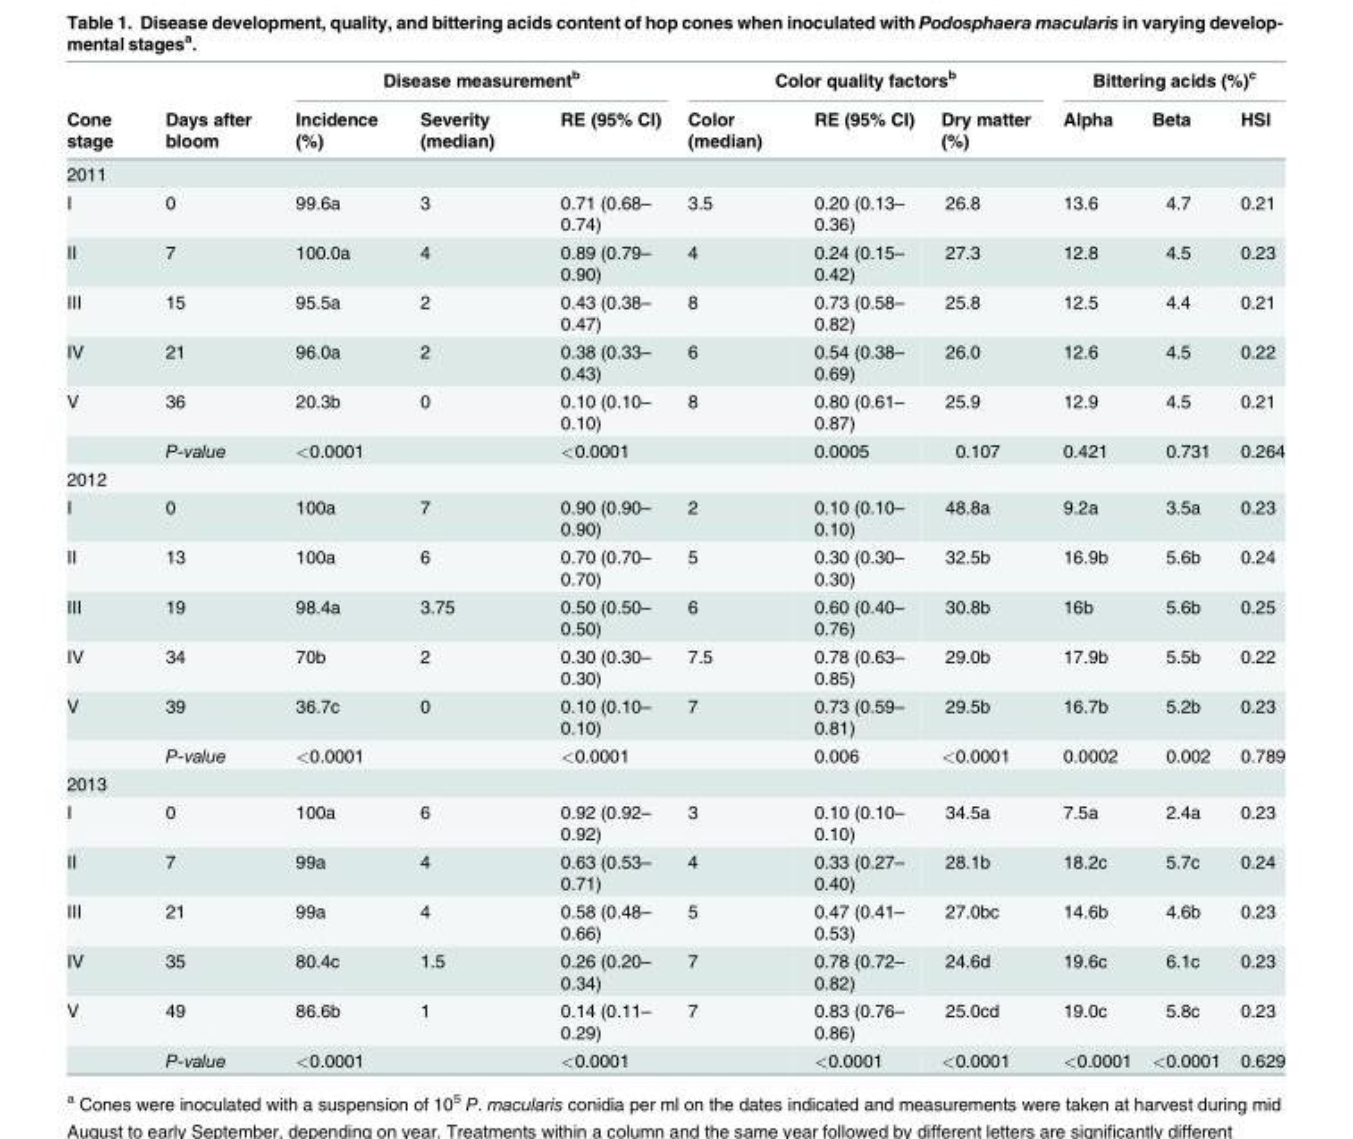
<table><thead><tr><td rowspan="2">Cone stage</td><td rowspan="2">Days after bloom</td><td colspan="3">Disease measurement<sup>b</sup></td><td colspan="3">Color quality factors<sup>b</sup></td><td colspan="3">Bittering acids (%)<sup>c</sup></td></tr><tr><td>Incidence (%)</td><td>Severity (median)</td><td>RE (95% CI)</td><td>Color (median)</td><td>RE (95% CI)</td><td>Dry matter (%)</td><td>Alpha</td><td>Beta</td><td>HSI</td></tr></thead><tbody><tr><td colspan="11">2011</td></tr><tr><td>I</td><td>0</td><td>99.6a</td><td>3</td><td>0.71 (0.68– 0.74)</td><td>3.5</td><td>0.20 (0.13– 0.36)</td><td>26.8</td><td>13.6</td><td>4.7</td><td>0.21</td></tr><tr><td>II</td><td>7</td><td>100.0a</td><td>4</td><td>0.89 (0.79– 0.90)</td><td>4</td><td>0.24 (0.15– 0.42)</td><td>27.3</td><td>12.8</td><td>4.5</td><td>0.23</td></tr><tr><td>III</td><td>15</td><td>95.5a</td><td>2</td><td>0.43 (0.38– 0.47)</td><td>8</td><td>0.73 (0.58– 0.82)</td><td>25.8</td><td>12.5</td><td>4.4</td><td>0.21</td></tr><tr><td>IV</td><td>21</td><td>96.0a</td><td>2</td><td>0.38 (0.33– 0.43)</td><td>6</td><td>0.54 (0.38– 0.69)</td><td>26.0</td><td>12.6</td><td>4.5</td><td>0.22</td></tr><tr><td rowspan="2">V</td><td>36</td><td>20.3b</td><td>0</td><td>0.10 (0.10– 0.10)</td><td>8</td><td>0.80 (0.61– 0.87)</td><td>25.9</td><td>12.9</td><td>4.5</td><td>0.21</td></tr><tr><td>P-value</td><td>&lt;0.0001</td><td></td><td>&lt;0.0001</td><td></td><td>0.0005</td><td>0.107</td><td>0.421</td><td>0.731</td><td>0.264</td></tr><tr><td colspan="11">2012</td></tr><tr><td>I</td><td>0</td><td>100a</td><td>7</td><td>0.90 (0.90– 0.90)</td><td>2</td><td>0.10 (0.10– 0.10)</td><td>48.8a</td><td>9.2a</td><td>3.5a</td><td>0.23</td></tr><tr><td>II</td><td>13</td><td>100a</td><td>6</td><td>0.70 (0.70– 0.70)</td><td>5</td><td>0.30 (0.30– 0.30)</td><td>32.5b</td><td>16.9b</td><td>5.6b</td><td>0.24</td></tr><tr><td>III</td><td>19</td><td>98.4a</td><td>3.75</td><td>0.50 (0.50– 0.50)</td><td>6</td><td>0.60 (0.40– 0.76)</td><td>30.8b</td><td>16b</td><td>5.6b</td><td>0.25</td></tr><tr><td>IV</td><td>34</td><td>70b</td><td>2</td><td>0.30 (0.30– 0.30)</td><td>7.5</td><td>0.78 (0.63– 0.85)</td><td>29.0b</td><td>17.9b</td><td>5.5b</td><td>0.22</td></tr><tr><td rowspan="2">V</td><td>39</td><td>36.7c</td><td>0</td><td>0.10 (0.10– 0.10)</td><td>7</td><td>0.73 (0.59– 0.81)</td><td>29.5b</td><td>16.7b</td><td>5.2b</td><td>0.23</td></tr><tr><td>P-value</td><td>&lt;0.0001</td><td></td><td>&lt;0.0001</td><td></td><td>0.006</td><td>&lt;0.0001</td><td>0.0002</td><td>0.002</td><td>0.789</td></tr><tr><td colspan="11">2013</td></tr><tr><td>I</td><td>0</td><td>100a</td><td>6</td><td>0.92 (0.92– 0.92)</td><td>3</td><td>0.10 (0.10– 0.10)</td><td>34.5a</td><td>7.5a</td><td>2.4a</td><td>0.23</td></tr><tr><td>II</td><td>7</td><td>99a</td><td>4</td><td>0.63 (0.53– 0.71)</td><td>4</td><td>0.33 (0.27– 0.40)</td><td>28.1b</td><td>18.2c</td><td>5.7c</td><td>0.24</td></tr><tr><td>III</td><td>21</td><td>99a</td><td>4</td><td>0.58 (0.48– 0.66)</td><td>5</td><td>0.47 (0.41– 0.53)</td><td>27.0bc</td><td>14.6b</td><td>4.6b</td><td>0.23</td></tr><tr><td>IV</td><td>35</td><td>80.4c</td><td>1.5</td><td>0.26 (0.20– 0.34)</td><td>7</td><td>0.78 (0.72– 0.82)</td><td>24.6d</td><td>19.6c</td><td>6.1c</td><td>0.23</td></tr><tr><td rowspan="2">V</td><td>49</td><td>86.6b</td><td>1</td><td>0.14 (0.11– 0.29)</td><td>7</td><td>0.83 (0.76– 0.86)</td><td>25.0cd</td><td>19.0c</td><td>5.8c</td><td>0.23</td></tr><tr><td>P-value</td><td>&lt;0.0001</td><td></td><td>&lt;0.0001</td><td></td><td>&lt;0.0001</td><td>&lt;0.0001</td><td>&lt;0.0001</td><td>&lt;0.0001</td><td>0.629</td></tr></tbody></table>